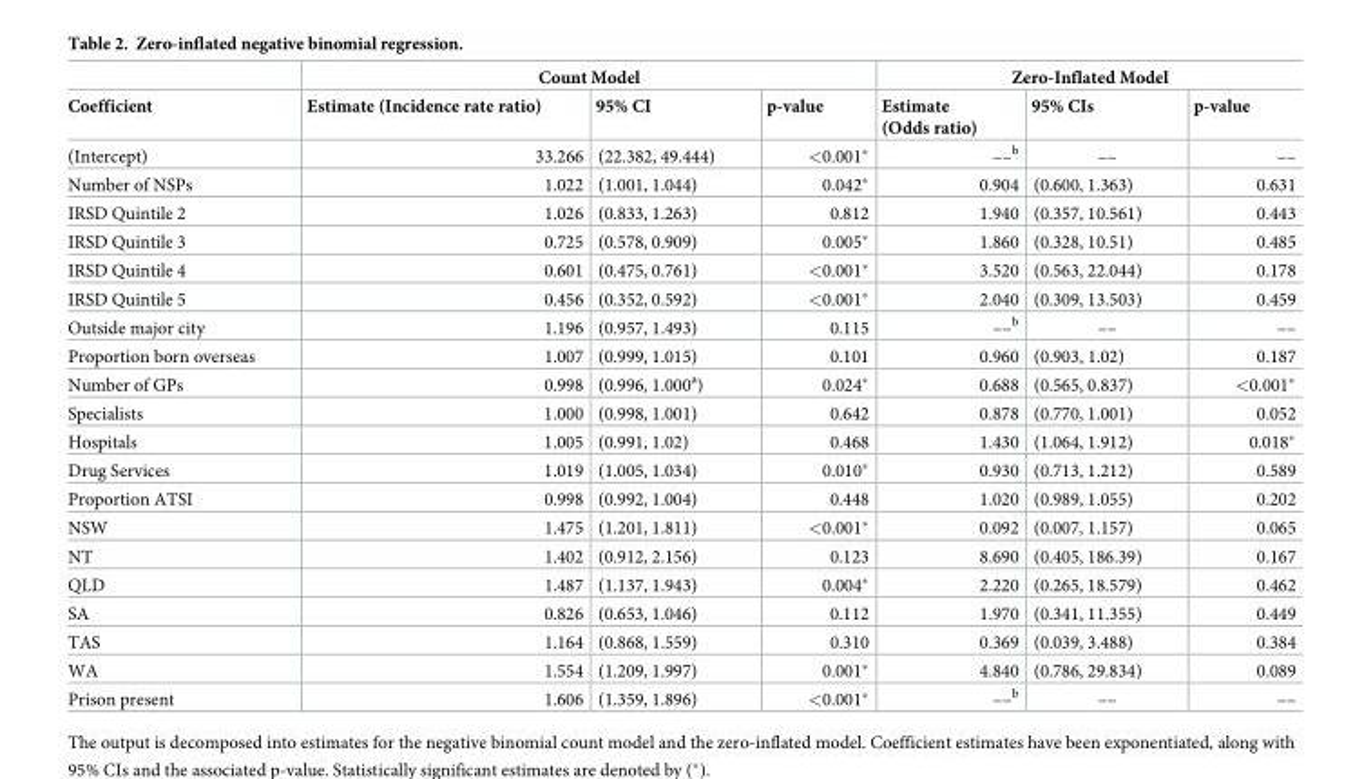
<table><thead><tr><td rowspan="2">Coefficient</td><td colspan="3">Count Model</td><td colspan="3">Zero-Inflated Model</td></tr><tr><td>Estimate (Incidence rate ratio)</td><td>95% CI</td><td>p-value</td><td>Estimate (Odds ratio)</td><td>95% CIs</td><td>p-value</td></tr></thead><tbody><tr><td>(Intercept)</td><td>33.266</td><td>(22.382, 49.444)</td><td>&lt;0.001*</td><td>––<sup>b</sup></td><td>––</td><td>––</td></tr><tr><td>Number of NSPs</td><td>1.022</td><td>(1.001, 1.044)</td><td>0.042*</td><td>0.904</td><td>(0.600, 1.363)</td><td>0.631</td></tr><tr><td>IRSD Quintile 2</td><td>1.026</td><td>(0.833, 1.263)</td><td>0.812</td><td>1.940</td><td>(0.357, 10.561)</td><td>0.443</td></tr><tr><td>IRSD Quintile 3</td><td>0.725</td><td>(0.578, 0.909)</td><td>0.005*</td><td>1.860</td><td>(0.328, 10.51)</td><td>0.485</td></tr><tr><td>IRSD Quintile 4</td><td>0.601</td><td>(0.475, 0.761)</td><td>&lt;0.001*</td><td>3.520</td><td>(0.563, 22.044)</td><td>0.178</td></tr><tr><td>IRSD Quintile 5</td><td>0.456</td><td>(0.352, 0.592)</td><td>&lt;0.001*</td><td>2.040</td><td>(0.309, 13.503)</td><td>0.459</td></tr><tr><td>Outside major city</td><td>1.196</td><td>(0.957, 1.493)</td><td>0.115</td><td>––<sup>b</sup></td><td>––</td><td>––</td></tr><tr><td>Proportion born overseas</td><td>1.007</td><td>(0.999, 1.015)</td><td>0.101</td><td>0.960</td><td>(0.903, 1.02)</td><td>0.187</td></tr><tr><td>Number of GPs</td><td>0.998</td><td>(0.996, 1.000<sup>a</sup>)</td><td>0.024*</td><td>0.688</td><td>(0.565, 0.837)</td><td>&lt;0.001*</td></tr><tr><td>Specialists</td><td>1.000</td><td>(0.998, 1.001)</td><td>0.642</td><td>0.878</td><td>(0.770, 1.001)</td><td>0.052</td></tr><tr><td>Hospitals</td><td>1.005</td><td>(0.991, 1.02)</td><td>0.468</td><td>1.430</td><td>(1.064, 1.912)</td><td>0.018*</td></tr><tr><td>Drug Services</td><td>1.019</td><td>(1.005, 1.034)</td><td>0.010*</td><td>0.930</td><td>(0.713, 1.212)</td><td>0.589</td></tr><tr><td>Proportion ATSI</td><td>0.998</td><td>(0.992, 1.004)</td><td>0.448</td><td>1.020</td><td>(0.989, 1.055)</td><td>0.202</td></tr><tr><td>NSW</td><td>1.475</td><td>(1.201, 1.811)</td><td>&lt;0.001*</td><td>0.092</td><td>(0.007, 1.157)</td><td>0.065</td></tr><tr><td>NT</td><td>1.402</td><td>(0.912, 2.156)</td><td>0.123</td><td>8.690</td><td>(0.405, 186.39)</td><td>0.167</td></tr><tr><td>QLD</td><td>1.487</td><td>(1.137, 1.943)</td><td>0.004*</td><td>2.220</td><td>(0.265, 18.579)</td><td>0.462</td></tr><tr><td>SA</td><td>0.826</td><td>(0.653, 1.046)</td><td>0.112</td><td>1.970</td><td>(0.341, 11.355)</td><td>0.449</td></tr><tr><td>TAS</td><td>1.164</td><td>(0.868, 1.559)</td><td>0.310</td><td>0.369</td><td>(0.039, 3.488)</td><td>0.384</td></tr><tr><td>WA</td><td>1.554</td><td>(1.209, 1.997)</td><td>0.001*</td><td>4.840</td><td>(0.786, 29.834)</td><td>0.089</td></tr><tr><td>Prison present</td><td>1.606</td><td>(1.359, 1.896)</td><td>&lt;0.001*</td><td>––<sup>b</sup></td><td>––</td><td>––</td></tr></tbody></table>